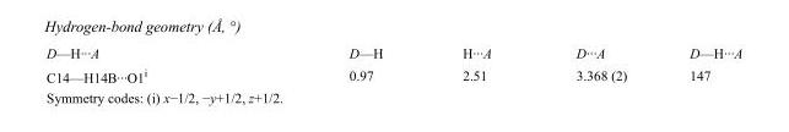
<table><tbody><tr><td>D—H···A</td><td>D—H</td><td>H···A</td><td>D···A</td><td>D—H···A</td></tr><tr><td>C14—H14B···O1<sup>i</sup></td><td>0.97</td><td>2.51</td><td>3.368 (2)</td><td>147</td></tr></tbody></table>